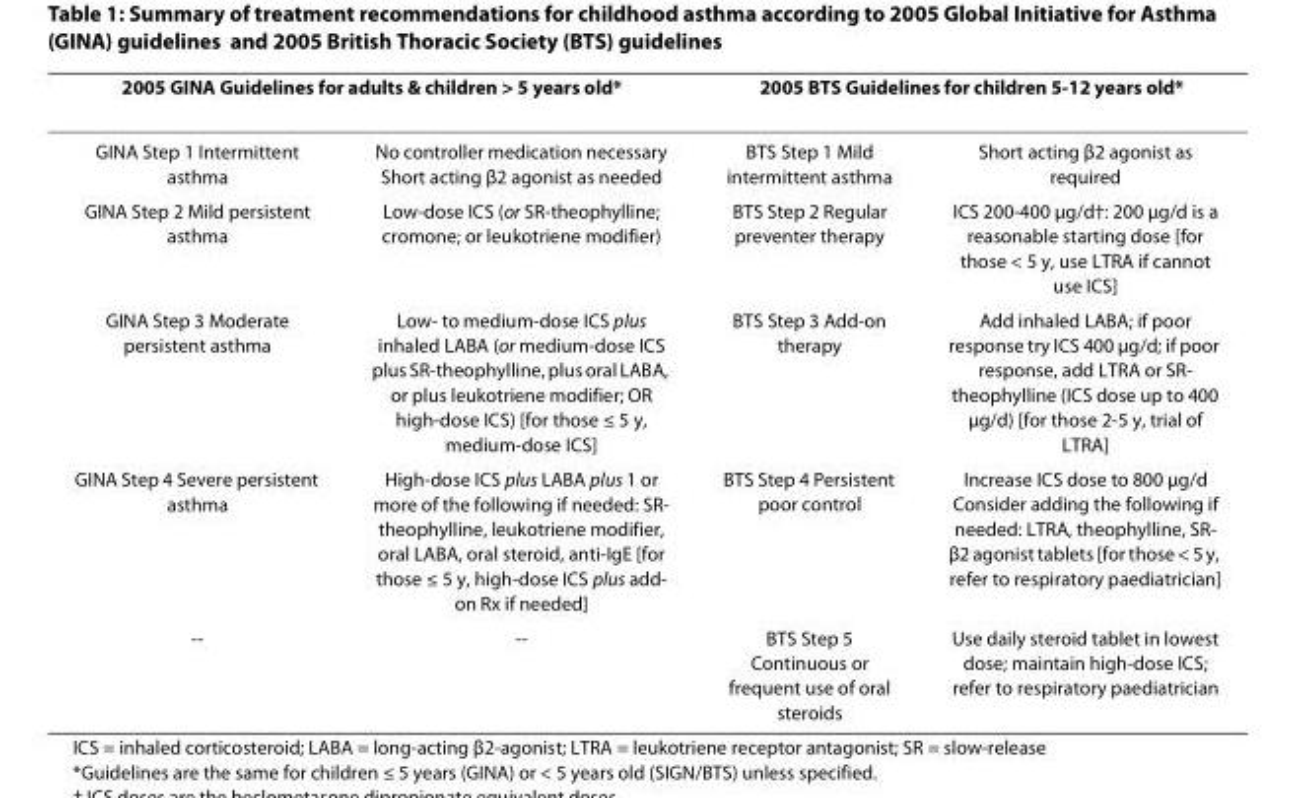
<table><thead><tr><td colspan="2">2005 GINA Guidelines for adults &amp; children &gt; 5 years old*</td><td colspan="2">2005 BTS Guidelines for children 5-12 years old*</td></tr><tr><td>GINA Step 1 Intermittent asthma</td><td>No controller medication necessary Short acting β2 agonist as needed</td><td>BTS Step 1 Mild intermittent asthma</td><td>Short acting β2 agonist as required</td></tr></thead><tbody><tr><td>GINA Step 2 Mild persistent asthma</td><td>Low-dose ICS (or SR-theophylline; cromone; or leukotriene modifier)</td><td>BTS Step 2 Regular preventer therapy</td><td>ICS 200-400 μg/d†: 200 μg/d is a reasonable starting dose [for those &lt; 5 y, use LTRA if cannot use ICS]</td></tr><tr><td>GINA Step 3 Moderate persistent asthma</td><td>Low- to medium-dose ICS plus inhaled LABA (or medium-dose ICS plus SR-theophylline, plus oral LABA, or plus leukotriene modifier; OR high-dose ICS) [for those ≤ 5 y, medium-dose ICS]</td><td>BTS Step 3 Add-on therapy</td><td>Add inhaled LABA; if poor response try ICS 400 μg/d; if poor response, add LTRA or SR- theophylline (ICS dose up to 400 μg/d) [for those 2-5 y, trial of LTRA]</td></tr><tr><td>GINA Step 4 Severe persistent asthma</td><td>High-dose ICS plus LABA plus 1 or more of the following if needed: SR- theophylline, leukotriene modifier, oral LABA, oral steroid, anti-IgE [for those ≤ 5 y, high-dose ICS plus add- on Rx if needed]</td><td>BTS Step 4 Persistent poor control</td><td>Increase ICS dose to 800 μg/d Consider adding the following if needed: LTRA, theophylline, SR- β2 agonist tablets [for those &lt; 5 y, refer to respiratory paediatrician]</td></tr><tr><td>--</td><td>--</td><td>BTS Step 5 Continuous or frequent use of oral steroids</td><td>Use daily steroid tablet in lowest dose; maintain high-dose ICS; refer to respiratory paediatrician</td></tr></tbody></table>